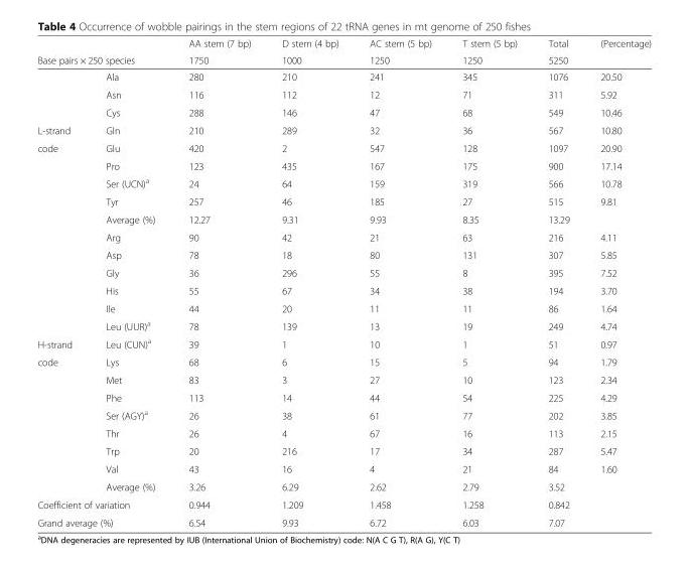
<table><thead><tr><td></td><td></td><td rowspan="2">AA stem (7 bp) 1750</td><td rowspan="2">D stem (4 bp) 1000</td><td rowspan="2">AC stem (5 bp) 1250</td><td rowspan="2">T stem (5 bp) 1250</td><td rowspan="2">Total 5250</td><td rowspan="2">(Percentage)</td></tr><tr><td colspan="2">Base pairs × 250 species</td></tr></thead><tbody><tr><td rowspan="3"></td><td>Ala</td><td>280</td><td>210</td><td>241</td><td>345</td><td>1076</td><td>20.50</td></tr><tr><td>Asn</td><td>116</td><td>112</td><td>12</td><td>71</td><td>311</td><td>5.92</td></tr><tr><td>Cys</td><td>288</td><td>146</td><td>47</td><td>68</td><td>549</td><td>10.46</td></tr><tr><td>L-strand</td><td>Gln</td><td>210</td><td>289</td><td>32</td><td>36</td><td>567</td><td>10.80</td></tr><tr><td rowspan="11">code</td><td>Glu</td><td>420</td><td>2</td><td>547</td><td>128</td><td>1097</td><td>20.90</td></tr><tr><td>Pro</td><td>123</td><td>435</td><td>167</td><td>175</td><td>900</td><td>17.14</td></tr><tr><td>Ser (UCN)<sup>a</sup></td><td>24</td><td>64</td><td>159</td><td>319</td><td>566</td><td>10.78</td></tr><tr><td>Tyr</td><td>257</td><td>46</td><td>185</td><td>27</td><td>515</td><td>9.81</td></tr><tr><td>Average (%)</td><td>12.27</td><td>9.31</td><td>9.93</td><td>8.35</td><td>13.29</td><td></td></tr><tr><td>Arg</td><td>90</td><td>42</td><td>21</td><td>63</td><td>216</td><td>4.11</td></tr><tr><td>Asp</td><td>78</td><td>18</td><td>80</td><td>131</td><td>307</td><td>5.85</td></tr><tr><td>Gly</td><td>36</td><td>296</td><td>55</td><td>8</td><td>395</td><td>7.52</td></tr><tr><td>His</td><td>55</td><td>67</td><td>34</td><td>38</td><td>194</td><td>3.70</td></tr><tr><td>Ile</td><td>44</td><td>20</td><td>11</td><td>11</td><td>86</td><td>1.64</td></tr><tr><td>Leu (UUR)<sup>a</sup></td><td>78</td><td>139</td><td>13</td><td>19</td><td>249</td><td>4.74</td></tr><tr><td>H-strand</td><td>Leu (CUN)<sup>a</sup></td><td>39</td><td>1</td><td>10</td><td>1</td><td>51</td><td>0.97</td></tr><tr><td rowspan="8">code</td><td>Lys</td><td>68</td><td>6</td><td>15</td><td>5</td><td>94</td><td>1.79</td></tr><tr><td>Met</td><td>83</td><td>3</td><td>27</td><td>10</td><td>123</td><td>2.34</td></tr><tr><td>Phe</td><td>113</td><td>14</td><td>44</td><td>54</td><td>225</td><td>4.29</td></tr><tr><td>Ser (AGY)<sup>a</sup></td><td>26</td><td>38</td><td>61</td><td>77</td><td>202</td><td>3.85</td></tr><tr><td>Thr</td><td>26</td><td>4</td><td>67</td><td>16</td><td>113</td><td>2.15</td></tr><tr><td>Trp</td><td>20</td><td>216</td><td>17</td><td>34</td><td>287</td><td>5.47</td></tr><tr><td>Val</td><td>43</td><td>16</td><td>4</td><td>21</td><td>84</td><td>1.60</td></tr><tr><td>Average (%)</td><td>3.26</td><td>6.29</td><td>2.62</td><td>2.79</td><td>3.52</td><td></td></tr><tr><td colspan="2">Coefficient of variation</td><td>0.944</td><td>1.209</td><td>1.458</td><td>1.258</td><td>0.842</td><td></td></tr><tr><td colspan="2">Grand average (%)</td><td>6.54</td><td>9.93</td><td>6.72</td><td>6.03</td><td>7.07</td><td></td></tr></tbody></table>